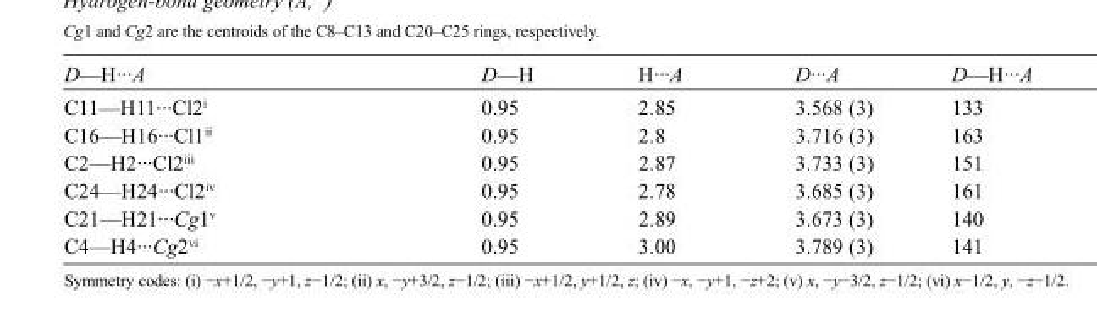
<table><tbody><tr><td>D—H···A</td><td>D—H</td><td>H···A</td><td>D···A</td><td>D—H···A</td></tr><tr><td>C11—H11···Cl2<sup>i</sup></td><td>0.95</td><td>2.85</td><td>3.568 (3)</td><td>133</td></tr><tr><td>C16—H16···Cl1<sup>ii</sup></td><td>0.95</td><td>2.8</td><td>3.716 (3)</td><td>163</td></tr><tr><td>C2—H2···Cl2<sup>iii</sup></td><td>0.95</td><td>2.87</td><td>3.733 (3)</td><td>151</td></tr><tr><td>C24—H24···Cl2<sup>iv</sup></td><td>0.95</td><td>2.78</td><td>3.685 (3)</td><td>161</td></tr><tr><td>C21—H21···Cg1<sup>v</sup></td><td>0.95</td><td>2.89</td><td>3.673 (3)</td><td>140</td></tr><tr><td>C4—H4···Cg2<sup>vi</sup></td><td>0.95</td><td>3.00</td><td>3.789 (3)</td><td>141</td></tr></tbody></table>